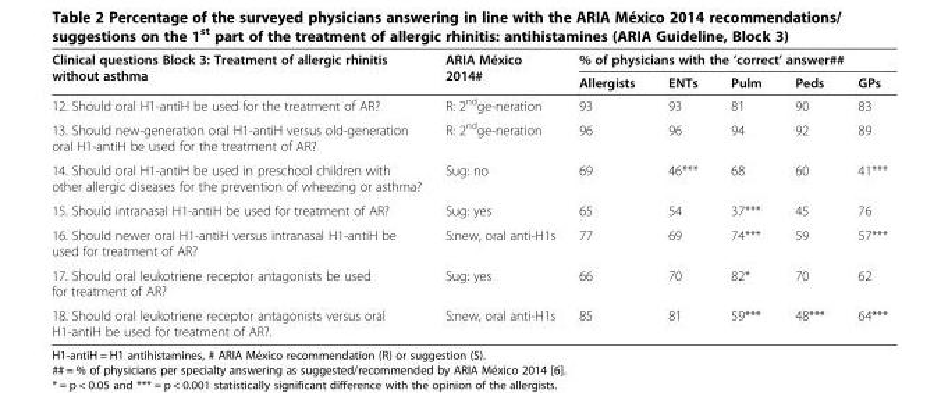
<table><thead><tr><td rowspan="2">Clinical questions Block 3: Treatment of allergic rhinitis without asthma</td><td rowspan="2">ARIA México 2014#</td><td colspan="5">% of physicians with the ‘correct’ answer##</td></tr><tr><td>Allergists</td><td>ENTs</td><td>Pulm</td><td>Peds</td><td>GPs</td></tr></thead><tbody><tr><td>12. Should oral H1-antiH be used for the treatment of AR?</td><td>R: 2<sup>nd</sup>ge-neration</td><td>93</td><td>93</td><td>81</td><td>90</td><td>83</td></tr><tr><td>13. Should new-generation oral H1-antiH versus old-generation oral H1-antiH be used for the treatment of AR?</td><td>R: 2<sup>nd</sup>ge-neration</td><td>96</td><td>96</td><td>94</td><td>92</td><td>89</td></tr><tr><td>14. Should oral H1-antiH be used in preschool children with other allergic diseases for the prevention of wheezing or asthma?</td><td>Sug: no</td><td>69</td><td>46***</td><td>68</td><td>60</td><td>41***</td></tr><tr><td>15. Should intranasal H1-antiH be used for treatment of AR?</td><td>Sug: yes</td><td>65</td><td>54</td><td>37***</td><td>45</td><td>76</td></tr><tr><td>16. Should newer oral H1-antiH versus intranasal H1-antiH be used for treatment of AR?</td><td>S:new, oral anti-H1s</td><td>77</td><td>69</td><td>74***</td><td>59</td><td>57***</td></tr><tr><td>17. Should oral leukotriene receptor antagonists be used for treatment of AR?</td><td>Sug: yes</td><td>66</td><td>70</td><td>82*</td><td>70</td><td>62</td></tr><tr><td>18. Should oral leukotriene receptor antagonists versus oral H1-antiH be used for treatment of AR?.</td><td>S:new, oral anti-H1s</td><td>85</td><td>81</td><td>59***</td><td>48***</td><td>64***</td></tr></tbody></table>